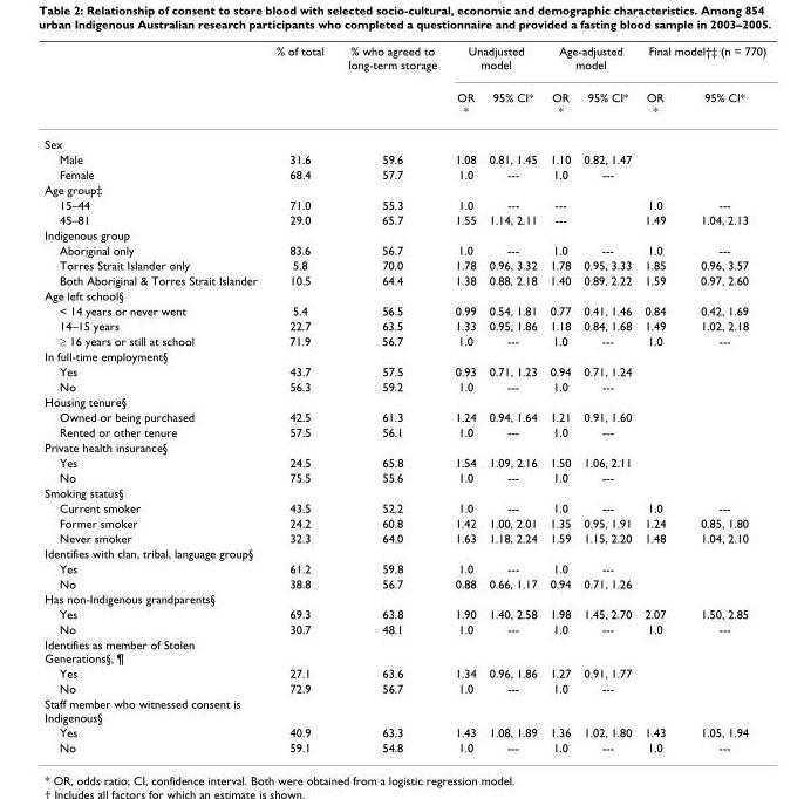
<table><thead><tr><td rowspan="2"></td><td rowspan="2">% of total</td><td rowspan="2">% who agreed to long-term storage</td><td colspan="2">Unadjusted model</td><td colspan="2">Age-adjusted model</td><td colspan="2">Final model†‡ (n = 770)</td></tr><tr><td>OR *</td><td>95% CI*</td><td>OR *</td><td>95% CI*</td><td>OR *</td><td>95% CI*</td></tr></thead><tbody><tr><td colspan="9">Sex</td></tr><tr><td>Male</td><td>31.6</td><td>59.6</td><td>1.08</td><td>0.81, 1.45</td><td>1.10</td><td>0.82, 1.47</td><td></td><td></td></tr><tr><td>Female</td><td>68.4</td><td>57.7</td><td>1.0</td><td>---</td><td>1.0</td><td>---</td><td></td><td></td></tr><tr><td colspan="9">Age group‡</td></tr><tr><td>15–44</td><td>71.0</td><td>55.3</td><td>1.0</td><td>---</td><td>---</td><td></td><td>1.0</td><td>---</td></tr><tr><td>45–81</td><td>29.0</td><td>65.7</td><td>1.55</td><td>1.14, 2.11</td><td>---</td><td></td><td>1.49</td><td>1.04, 2.13</td></tr><tr><td colspan="9">Indigenous group</td></tr><tr><td>Aboriginal only</td><td>83.6</td><td>56.7</td><td>1.0</td><td>---</td><td>1.0</td><td>---</td><td>1.0</td><td>---</td></tr><tr><td>Torres Strait Islander only</td><td>5.8</td><td>70.0</td><td>1.78</td><td>0.96, 3.32</td><td>1.78</td><td>0.95, 3.33</td><td>1.85</td><td>0.96, 3.57</td></tr><tr><td>Both Aboriginal &amp; Torres Strait Islander</td><td>10.5</td><td>64.4</td><td>1.38</td><td>0.88, 2.18</td><td>1.40</td><td>0.89, 2.22</td><td>1.59</td><td>0.97, 2.60</td></tr><tr><td colspan="9">Age left school§</td></tr><tr><td>&lt; 14 years or never went</td><td>5.4</td><td>56.5</td><td>0.99</td><td>0.54, 1.81</td><td>0.77</td><td>0.41, 1.46</td><td>0.84</td><td>0.42, 1.69</td></tr><tr><td>14–15 years</td><td>22.7</td><td>63.5</td><td>1.33</td><td>0.95, 1.86</td><td>1.18</td><td>0.84, 1.68</td><td>1.49</td><td>1.02, 2.18</td></tr><tr><td>≥ 16 years or still at school</td><td>71.9</td><td>56.7</td><td>1.0</td><td>---</td><td>1.0</td><td>---</td><td>1.0</td><td>---</td></tr><tr><td colspan="9">In full-time employment§</td></tr><tr><td>Yes</td><td>43.7</td><td>57.5</td><td>0.93</td><td>0.71, 1.23</td><td>0.94</td><td>0.71, 1.24</td><td></td><td></td></tr><tr><td>No</td><td>56.3</td><td>59.2</td><td>1.0</td><td>---</td><td>1.0</td><td>---</td><td></td><td></td></tr><tr><td colspan="9">Housing tenure§</td></tr><tr><td>Owned or being purchased</td><td>42.5</td><td>61.3</td><td>1.24</td><td>0.94, 1.64</td><td>1.21</td><td>0.91, 1.60</td><td></td><td></td></tr><tr><td>Rented or other tenure</td><td>57.5</td><td>56.1</td><td>1.0</td><td>---</td><td>1.0</td><td>---</td><td></td><td></td></tr><tr><td colspan="9">Private health insurance§</td></tr><tr><td>Yes</td><td>24.5</td><td>65.8</td><td>1.54</td><td>1.09, 2.16</td><td>1.50</td><td>1.06, 2.11</td><td></td><td></td></tr><tr><td>No</td><td>75.5</td><td>55.6</td><td>1.0</td><td>---</td><td>1.0</td><td>---</td><td></td><td></td></tr><tr><td colspan="9">Smoking status§</td></tr><tr><td>Current smoker</td><td>43.5</td><td>52.2</td><td>1.0</td><td>---</td><td>1.0</td><td>---</td><td>1.0</td><td>---</td></tr><tr><td>Former smoker</td><td>24.2</td><td>60.8</td><td>1.42</td><td>1.00, 2.01</td><td>1.35</td><td>0.95, 1.91</td><td>1.24</td><td>0.85, 1.80</td></tr><tr><td>Never smoker</td><td>32.3</td><td>64.0</td><td>1.63</td><td>1.18, 2.24</td><td>1.59</td><td>1.15, 2.20</td><td>1.48</td><td>1.04, 2.10</td></tr><tr><td colspan="9">Identifies with clan, tribal, language group§</td></tr><tr><td>Yes</td><td>61.2</td><td>59.8</td><td>1.0</td><td>---</td><td>1.0</td><td>---</td><td></td><td></td></tr><tr><td>No</td><td>38.8</td><td>56.7</td><td>0.88</td><td>0.66, 1.17</td><td>0.94</td><td>0.71, 1.26</td><td></td><td></td></tr><tr><td colspan="9">Has non-Indigenous grandparents§</td></tr><tr><td>Yes</td><td>69.3</td><td>63.8</td><td>1.90</td><td>1.40, 2.58</td><td>1.98</td><td>1.45, 2.70</td><td>2.07</td><td>1.50, 2.85</td></tr><tr><td>No</td><td>30.7</td><td>48.1</td><td>1.0</td><td>---</td><td>1.0</td><td>---</td><td>1.0</td><td>---</td></tr><tr><td colspan="9">Identifies as member of Stolen Generations§, ¶</td></tr><tr><td>Yes</td><td>27.1</td><td>63.6</td><td>1.34</td><td>0.96, 1.86</td><td>1.27</td><td>0.91, 1.77</td><td></td><td></td></tr><tr><td>No</td><td>72.9</td><td>56.7</td><td>1.0</td><td>---</td><td>1.0</td><td>---</td><td></td><td></td></tr><tr><td colspan="9">Staff member who witnessed consent is Indigenous§</td></tr><tr><td>Yes</td><td>40.9</td><td>63.3</td><td>1.43</td><td>1.08, 1.89</td><td>1.36</td><td>1.02, 1.80</td><td>1.43</td><td>1.05, 1.94</td></tr><tr><td>No</td><td>59.1</td><td>54.8</td><td>1.0</td><td>---</td><td>1.0</td><td>---</td><td>1.0</td><td>---</td></tr></tbody></table>